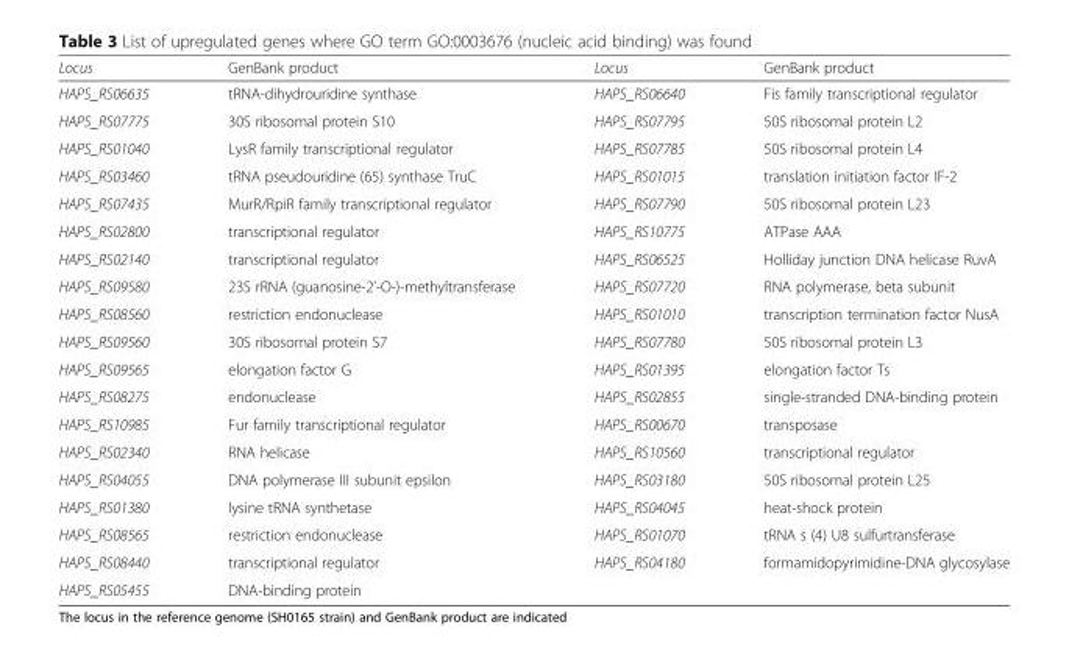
<table><thead><tr><td>Locus</td><td>GenBank product</td><td>Locus</td><td>GenBank product</td></tr></thead><tbody><tr><td>HAPS_RS06635</td><td>tRNA-dihydrouridine synthase</td><td>HAPS_RS06640</td><td>Fis family transcriptional regulator</td></tr><tr><td>HAPS_RS07775</td><td>30S ribosomal protein S10</td><td>HAPS_RS07795</td><td>50S ribosomal protein L2</td></tr><tr><td>HAPS_RS01040</td><td>LysR family transcriptional regulator</td><td>HAPS_RS07785</td><td>50S ribosomal protein L4</td></tr><tr><td>HAPS_RS03460</td><td>tRNA pseudouridine (65) synthase TruC</td><td>HAPS_RS01015</td><td>translation initiation factor IF-2</td></tr><tr><td>HAPS_RS07435</td><td>MurR/RpiR family transcriptional regulator</td><td>HAPS_RS07790</td><td>50S ribosomal protein L23</td></tr><tr><td>HAPS_RS02800</td><td>transcriptional regulator</td><td>HAPS_RS10775</td><td>ATPase AAA</td></tr><tr><td>HAPS_RS02140</td><td>transcriptional regulator</td><td>HAPS_RS06525</td><td>Holliday junction DNA helicase RuvA</td></tr><tr><td>HAPS_RS09580</td><td>23S rRNA (guanosine-2’-O-)-methyltransferase</td><td>HAPS_RS07720</td><td>RNA polymerase, beta subunit</td></tr><tr><td>HAPS_RS08560</td><td>restriction endonuclease</td><td>HAPS_RS01010</td><td>transcription termination factor NusA</td></tr><tr><td>HAPS_RS09560</td><td>30S ribosomal protein S7</td><td>HAPS_RS07780</td><td>50S ribosomal protein L3</td></tr><tr><td>HAPS_RS09565</td><td>elongation factor G</td><td>HAPS_RS01395</td><td>elongation factor Ts</td></tr><tr><td>HAPS_RS08275</td><td>endonuclease</td><td>HAPS_RS02855</td><td>single-stranded DNA-binding protein</td></tr><tr><td>HAPS_RS10985</td><td>Fur family transcriptional regulator</td><td>HAPS_RS00670</td><td>transposase</td></tr><tr><td>HAPS_RS02340</td><td>RNA helicase</td><td>HAPS_RS10560</td><td>transcriptional regulator</td></tr><tr><td>HAPS_RS04055</td><td>DNA polymerase III subunit epsilon</td><td>HAPS_RS03180</td><td>50S ribosomal protein L25</td></tr><tr><td>HAPS_RS01380</td><td>lysine tRNA synthetase</td><td>HAPS_RS04045</td><td>heat-shock protein</td></tr><tr><td>HAPS_RS08565</td><td>restriction endonuclease</td><td>HAPS_RS01070</td><td>tRNA s (4) U8 sulfurtransferase</td></tr><tr><td>HAPS_RS08440</td><td>transcriptional regulator</td><td>HAPS_RS04180</td><td>formamidopyrimidine-DNA glycosylase</td></tr><tr><td>HAPS_RS05455</td><td>DNA-binding protein</td><td></td><td></td></tr></tbody></table>